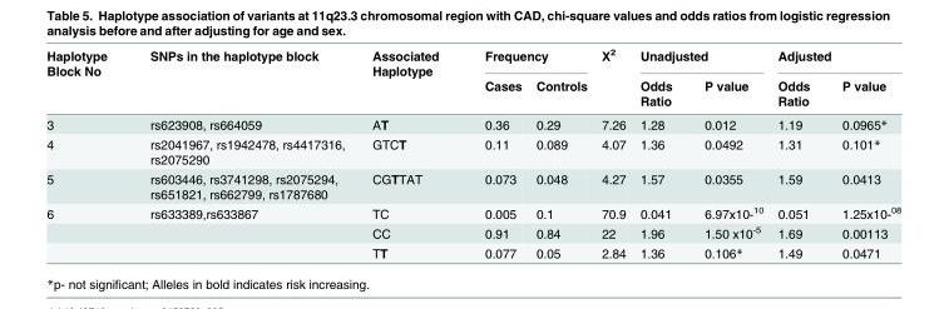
<table><thead><tr><td rowspan="2">Haplotype Block No</td><td rowspan="2">SNPs in the haplotype block</td><td rowspan="2">Associated Haplotype</td><td colspan="2">Frequency</td><td rowspan="2">Χ<sup>2</sup></td><td colspan="2">Unadjusted</td><td colspan="2">Adjusted</td></tr><tr><td>Cases</td><td>Controls</td><td>Odds Ratio</td><td>P value</td><td>Odds Ratio</td><td>P value</td></tr></thead><tbody><tr><td>3</td><td>rs623908, rs664059</td><td>AT</td><td>0.36</td><td>0.29</td><td>7.26</td><td>1.28</td><td>0.012</td><td>1.19</td><td>0.0965*</td></tr><tr><td>4</td><td>rs2041967, rs1942478, rs4417316, rs2075290</td><td>GTCT</td><td>0.11</td><td>0.089</td><td>4.07</td><td>1.36</td><td>0.0492</td><td>1.31</td><td>0.101*</td></tr><tr><td>5</td><td>rs603446, rs3741298, rs2075294, rs651821, rs662799, rs1787680</td><td>CGTTAT</td><td>0.073</td><td>0.048</td><td>4.27</td><td>1.57</td><td>0.0355</td><td>1.59</td><td>0.0413</td></tr><tr><td rowspan="3">6</td><td>rs633389,rs633867</td><td>TC</td><td>0.005</td><td>0.1</td><td>70.9</td><td>0.041</td><td>6.97x10-<sup>10</sup></td><td>0.051</td><td>1.25x10-<sup>08</sup></td></tr><tr><td></td><td>CC</td><td>0.91</td><td>0.84</td><td>22</td><td>1.96</td><td>1.50 x10<sup>-5</sup></td><td>1.69</td><td>0.00113</td></tr><tr><td></td><td>TT</td><td>0.077</td><td>0.05</td><td>2.84</td><td>1.36</td><td>0.106*</td><td>1.49</td><td>0.0471</td></tr></tbody></table>